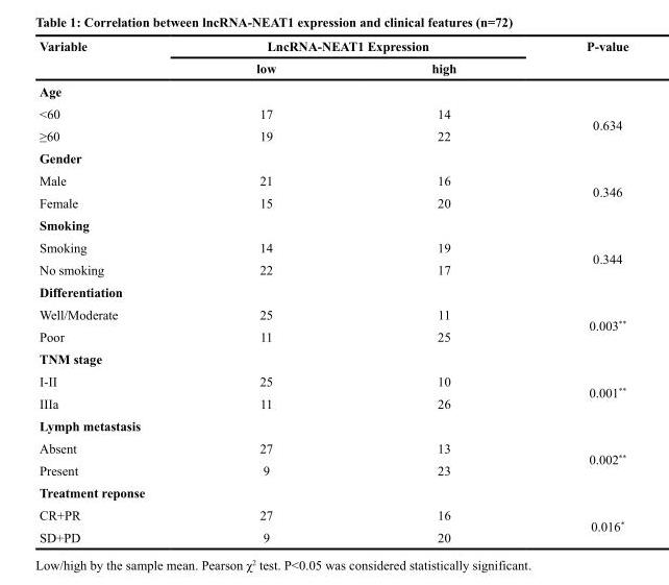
<table><thead><tr><td rowspan="2">Variable</td><td colspan="2">LncRNA-NEAT1 Expression</td><td rowspan="2">P-value</td></tr><tr><td>low</td><td>high</td></tr></thead><tbody><tr><td colspan="4">Age</td></tr><tr><td>&lt;60</td><td>17</td><td>14</td><td rowspan="2">0.634</td></tr><tr><td>≥60</td><td>19</td><td>22</td></tr><tr><td colspan="4">Gender</td></tr><tr><td>Male</td><td>21</td><td>16</td><td rowspan="2">0.346</td></tr><tr><td>Female</td><td>15</td><td>20</td></tr><tr><td colspan="4">Smoking</td></tr><tr><td>Smoking</td><td>14</td><td>19</td><td rowspan="2">0.344</td></tr><tr><td>No smoking</td><td>22</td><td>17</td></tr><tr><td colspan="4">Differentiation</td></tr><tr><td>Well/Moderate</td><td>25</td><td>11</td><td rowspan="2">0.003**</td></tr><tr><td>Poor</td><td>11</td><td>25</td></tr><tr><td colspan="4">TNM stage</td></tr><tr><td>I-II</td><td>25</td><td>10</td><td rowspan="2">0.001**</td></tr><tr><td>IIIa</td><td>11</td><td>26</td></tr><tr><td colspan="4">Lymph metastasis</td></tr><tr><td>Absent</td><td>27</td><td>13</td><td rowspan="2">0.002**</td></tr><tr><td>Present</td><td>9</td><td>23</td></tr><tr><td colspan="4">Treatment reponse</td></tr><tr><td>CR+PR</td><td>27</td><td>16</td><td rowspan="2">0.016*</td></tr><tr><td>SD+PD</td><td>9</td><td>20</td></tr></tbody></table>